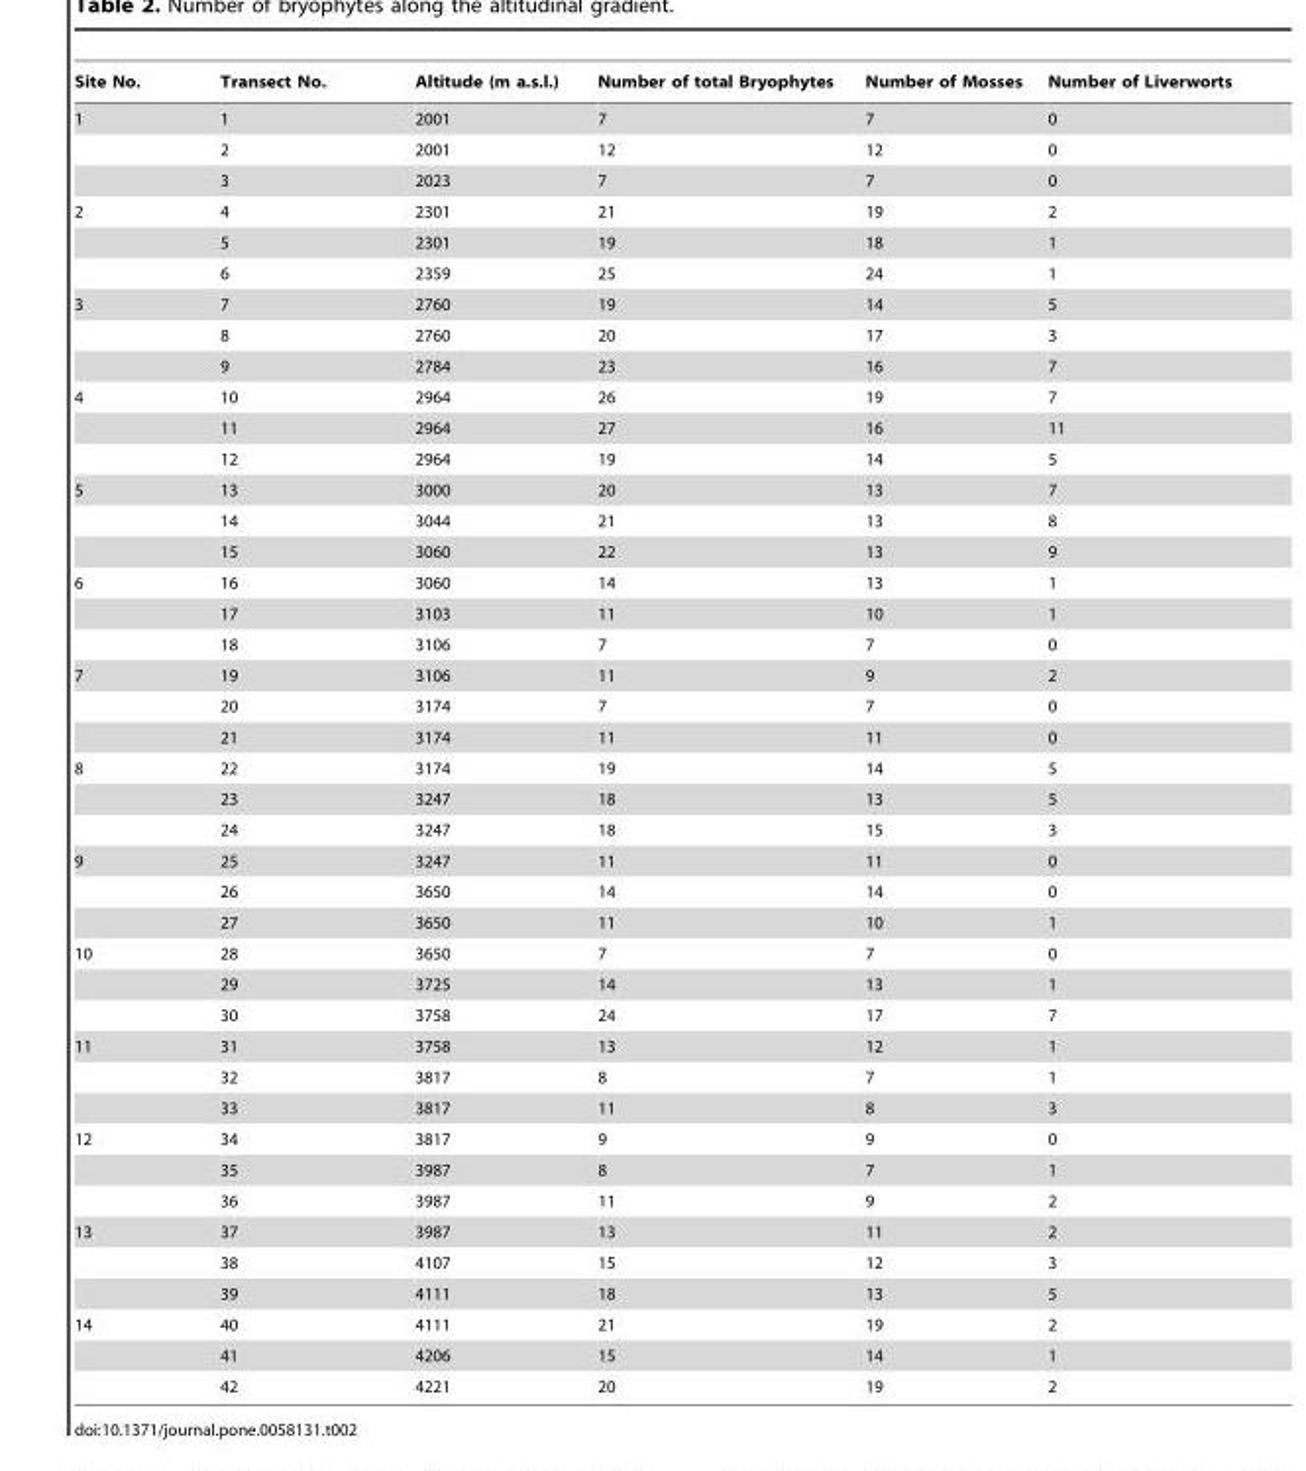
<table><thead><tr><td>Site No.</td><td>Transect No.</td><td>Altitude (m a.s.l.)</td><td>Number of total Bryophytes</td><td>Number of Mosses</td><td>Number of Liverworts</td></tr></thead><tbody><tr><td rowspan="3">1</td><td>1</td><td>2001</td><td>7</td><td>7</td><td>0</td></tr><tr><td>2</td><td>2001</td><td>12</td><td>12</td><td>0</td></tr><tr><td>3</td><td>2023</td><td>7</td><td>7</td><td>0</td></tr><tr><td rowspan="3">2</td><td>4</td><td>2301</td><td>21</td><td>19</td><td>2</td></tr><tr><td>5</td><td>2301</td><td>19</td><td>18</td><td>1</td></tr><tr><td>6</td><td>2359</td><td>25</td><td>24</td><td>1</td></tr><tr><td rowspan="3">3</td><td>7</td><td>2760</td><td>19</td><td>14</td><td>5</td></tr><tr><td>8</td><td>2760</td><td>20</td><td>17</td><td>3</td></tr><tr><td>9</td><td>2784</td><td>23</td><td>16</td><td>7</td></tr><tr><td rowspan="3">4</td><td>10</td><td>2964</td><td>26</td><td>19</td><td>7</td></tr><tr><td>11</td><td>2964</td><td>27</td><td>16</td><td>11</td></tr><tr><td>12</td><td>2964</td><td>19</td><td>14</td><td>5</td></tr><tr><td rowspan="3">5</td><td>13</td><td>3000</td><td>20</td><td>13</td><td>7</td></tr><tr><td>14</td><td>3044</td><td>21</td><td>13</td><td>8</td></tr><tr><td>15</td><td>3060</td><td>22</td><td>13</td><td>9</td></tr><tr><td rowspan="3">6</td><td>16</td><td>3060</td><td>14</td><td>13</td><td>1</td></tr><tr><td>17</td><td>3103</td><td>11</td><td>10</td><td>1</td></tr><tr><td>18</td><td>3106</td><td>7</td><td>7</td><td>0</td></tr><tr><td rowspan="3">7</td><td>19</td><td>3106</td><td>11</td><td>9</td><td>2</td></tr><tr><td>20</td><td>3174</td><td>7</td><td>7</td><td>0</td></tr><tr><td>21</td><td>3174</td><td>11</td><td>11</td><td>0</td></tr><tr><td rowspan="3">8</td><td>22</td><td>3174</td><td>19</td><td>14</td><td>5</td></tr><tr><td>23</td><td>3247</td><td>18</td><td>13</td><td>5</td></tr><tr><td>24</td><td>3247</td><td>18</td><td>15</td><td>3</td></tr><tr><td rowspan="3">9</td><td>25</td><td>3247</td><td>11</td><td>11</td><td>0</td></tr><tr><td>26</td><td>3650</td><td>14</td><td>14</td><td>0</td></tr><tr><td>27</td><td>3650</td><td>11</td><td>10</td><td>1</td></tr><tr><td rowspan="3">10</td><td>28</td><td>3650</td><td>7</td><td>7</td><td>0</td></tr><tr><td>29</td><td>3725</td><td>14</td><td>13</td><td>1</td></tr><tr><td>30</td><td>3758</td><td>24</td><td>17</td><td>7</td></tr><tr><td rowspan="3">11</td><td>31</td><td>3758</td><td>13</td><td>12</td><td>1</td></tr><tr><td>32</td><td>3817</td><td>8</td><td>7</td><td>1</td></tr><tr><td>33</td><td>3817</td><td>11</td><td>8</td><td>3</td></tr><tr><td rowspan="3">12</td><td>34</td><td>3817</td><td>9</td><td>9</td><td>0</td></tr><tr><td>35</td><td>3987</td><td>8</td><td>7</td><td>1</td></tr><tr><td>36</td><td>3987</td><td>11</td><td>9</td><td>2</td></tr><tr><td rowspan="3">13</td><td>37</td><td>3987</td><td>13</td><td>11</td><td>2</td></tr><tr><td>38</td><td>4107</td><td>15</td><td>12</td><td>3</td></tr><tr><td>39</td><td>4111</td><td>18</td><td>13</td><td>5</td></tr><tr><td rowspan="3">14</td><td>40</td><td>4111</td><td>21</td><td>19</td><td>2</td></tr><tr><td>41</td><td>4206</td><td>15</td><td>14</td><td>1</td></tr><tr><td>42</td><td>4221</td><td>20</td><td>19</td><td>2</td></tr></tbody></table>